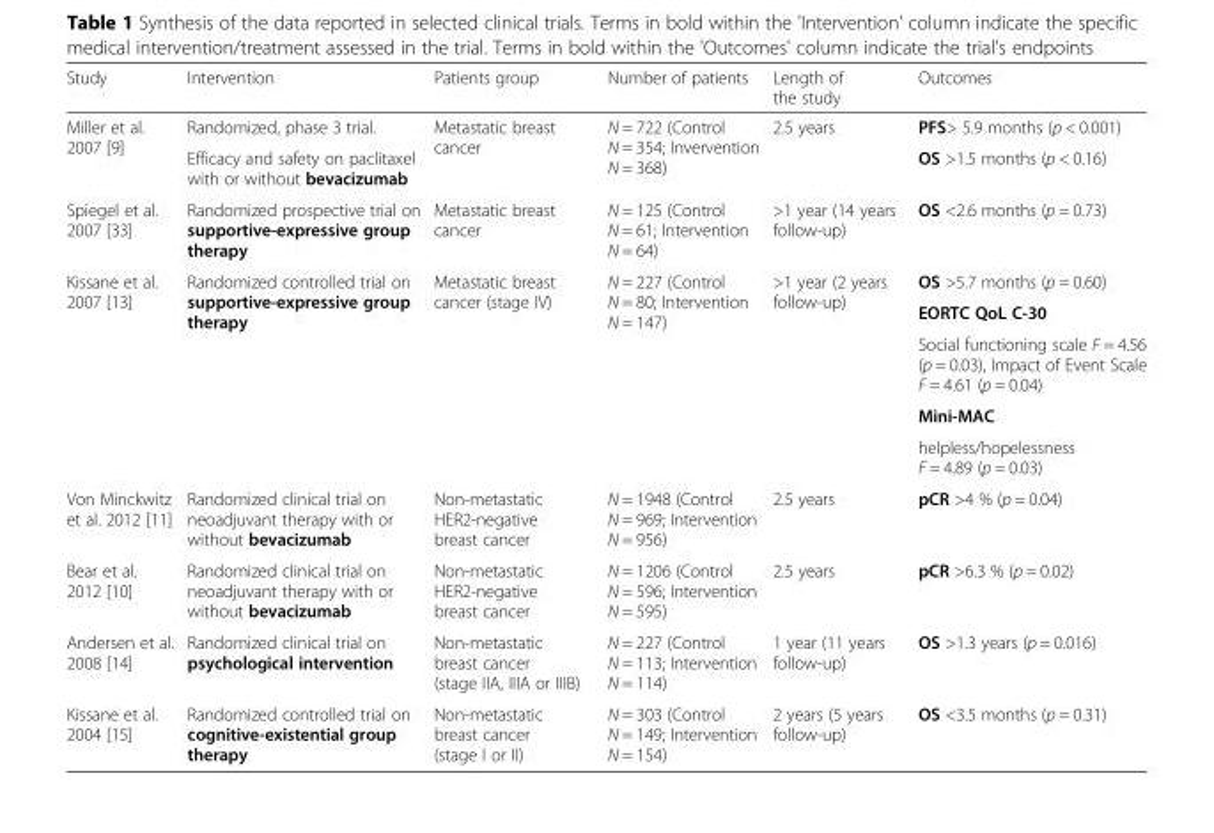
<table><thead><tr><td>Study</td><td>Intervention</td><td>Patients group</td><td>Number of patients</td><td>Length of the study</td><td>Outcomes</td></tr></thead><tbody><tr><td rowspan="2">Miller et al. 2007 [9]</td><td>Randomized, phase 3 trial.</td><td rowspan="2">Metastatic breast cancer</td><td rowspan="2">N = 722 (Control N = 354; Invervention N = 368)</td><td rowspan="2">2.5 years</td><td>PFS&gt; 5.9 months (p &lt; 0.001)</td></tr><tr><td>Efficacy and safety on paclitaxel with or without bevacizumab</td><td>OS &gt;1.5 months (p &lt; 0.16)</td></tr><tr><td>Spiegel et al. 2007 [33]</td><td>Randomized prospective trial on supportive-expressive group therapy</td><td>Metastatic breast cancer</td><td>N = 125 (Control N = 61; Intervention N = 64)</td><td>&gt;1 year (14 years follow-up)</td><td>OS &lt;2.6 months (p = 0.73)</td></tr><tr><td rowspan="5">Kissane et al. 2007 [13]</td><td rowspan="5">Randomized controlled trial on supportive-expressive group therapy</td><td rowspan="5">Metastatic breast cancer (stage IV)</td><td rowspan="5">N = 227 (Control N = 80; Intervention N = 147)</td><td rowspan="5">&gt;1 year (2 years follow-up)</td><td>OS &gt;5.7 months (p = 0.60)</td></tr><tr><td>EORTC QoL C-30</td></tr><tr><td>Social functioning scale F = 4.56 (p = 0.03), Impact of Event Scale F = 4.61 (p = 0.04)</td></tr><tr><td>Mini-MAC</td></tr><tr><td>helpless/hopelessness F = 4.89 (p = 0.03)</td></tr><tr><td>Von Minckwitz et al. 2012 [11]</td><td>Randomized clinical trial on neoadjuvant therapy with or without bevacizumab</td><td>Non-metastatic HER2-negative breast cancer</td><td>N = 1948 (Control N = 969; Intervention N = 956)</td><td>2.5 years</td><td>pCR &gt;4 % (p = 0.04)</td></tr><tr><td>Bear et al. 2012 [10]</td><td>Randomized clinical trial on neoadjuvant therapy with or without bevacizumab</td><td>Non-metastatic HER2-negative breast cancer</td><td>N = 1206 (Control N = 596; Intervention N = 595)</td><td>2.5 years</td><td>pCR &gt;6.3 % (p = 0.02)</td></tr><tr><td>Andersen et al. 2008 [14]</td><td>Randomized clinical trial on psychological intervention</td><td>Non-metastatic breast cancer (stage IIA, IIIA or IIIB)</td><td>N = 227 (Control N = 113; Intervention N = 114)</td><td>1 year (11 years follow-up)</td><td>OS &gt;1.3 years (p = 0.016)</td></tr><tr><td>Kissane et al. 2004 [15]</td><td>Randomized controlled trial on cognitive-existential group therapy</td><td>Non-metastatic breast cancer (stage I or II)</td><td>N = 303 (Control N = 149; Intervention N = 154)</td><td>2 years (5 years follow-up)</td><td>OS &lt;3.5 months (p = 0.31)</td></tr></tbody></table>